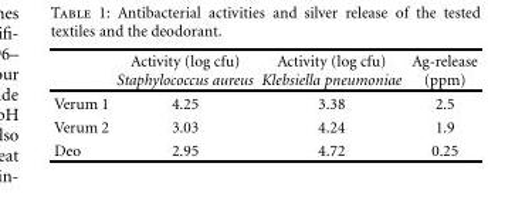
<table><thead><tr><td></td><td>Activity (log cfu) Staphylococcus aureus</td><td>Activity (log cfu) Klebsiella pneumoniae</td><td>Ag-release (ppm)</td></tr></thead><tbody><tr><td>Verum 1</td><td>4.25</td><td>3.38</td><td>2.5</td></tr><tr><td>Verum 2</td><td>3.03</td><td>4.24</td><td>1.9</td></tr><tr><td>Deo</td><td>2.95</td><td>4.72</td><td>0.25</td></tr></tbody></table>